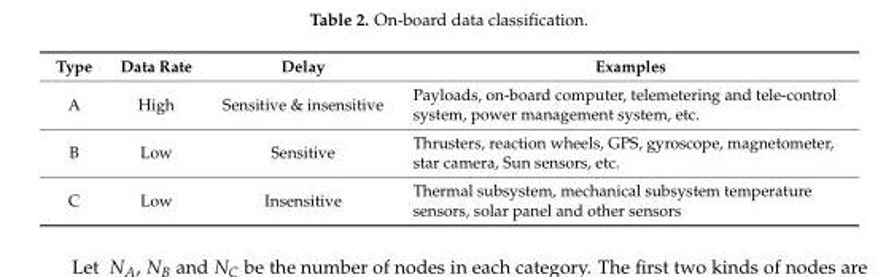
<table><thead><tr><td>Type</td><td>Data Rate</td><td>Delay</td><td>Examples</td></tr></thead><tbody><tr><td>A</td><td>High</td><td>Sensitive &amp; insensitive</td><td>Payloads, on-board computer, telemetering and tele-control system, power management system, etc.</td></tr><tr><td>B</td><td>Low</td><td>Sensitive</td><td>Thrusters, reaction wheels, GPS, gyroscope, magnetometer, star camera, Sun sensors, etc.</td></tr><tr><td>C</td><td>Low</td><td>Insensitive</td><td>Thermal subsystem, mechanical subsystem temperature sensors, solar panel and other sensors</td></tr></tbody></table>